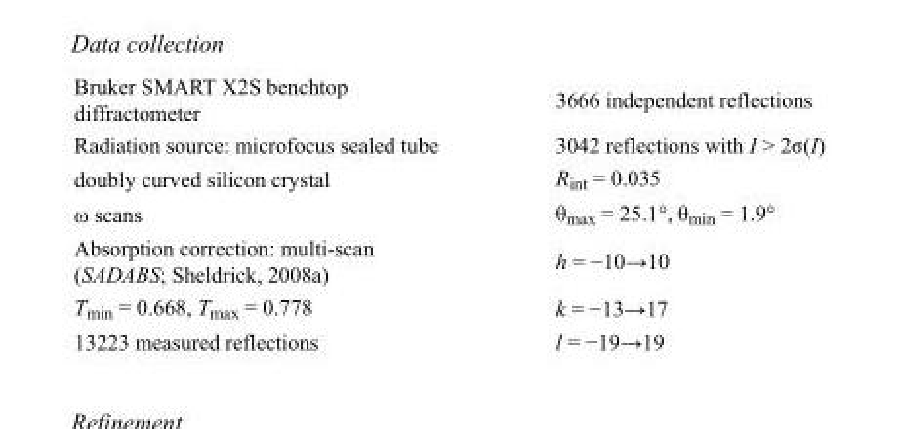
<table><tbody><tr><td>Bruker SMART X2S benchtop diffractometer</td><td>3666 independent reflections</td></tr><tr><td>Radiation source: microfocus sealed tube</td><td>3042 reflections with I &gt; 2σ(I)</td></tr><tr><td>doubly curved silicon crystal</td><td>R<sub>int</sub> = 0.035</td></tr><tr><td>ω scans</td><td>θ<sub>max</sub> = 25.1°, θ<sub>min</sub> = 1.9°</td></tr><tr><td>Absorption correction: multi-scan (SADABS; Sheldrick, 2008a)</td><td>h = −10→10</td></tr><tr><td>T<sub>min</sub> = 0.668, T<sub>max</sub> = 0.778</td><td>k = −13→17</td></tr><tr><td>13223 measured reflections</td><td>l = −19→19</td></tr></tbody></table>